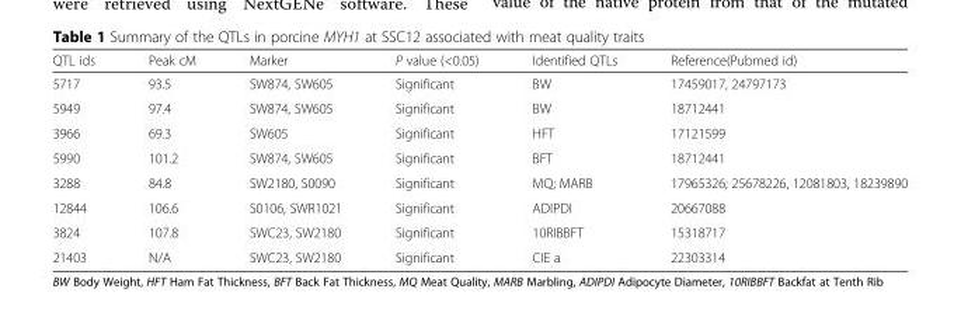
<table><thead><tr><td>QTL ids</td><td>Peak cM</td><td>Marker</td><td>P value (&lt;0.05)</td><td>Identified QTLs</td><td>Reference(Pubmed id)</td></tr></thead><tbody><tr><td>5717</td><td>93.5</td><td>SW874, SW605</td><td>Significant</td><td>BW</td><td>17459017, 24797173</td></tr><tr><td>5949</td><td>97.4</td><td>SW874, SW605</td><td>Significant</td><td>BW</td><td>18712441</td></tr><tr><td>3966</td><td>69.3</td><td>SW605</td><td>Significant</td><td>HFT</td><td>17121599</td></tr><tr><td>5990</td><td>101.2</td><td>SW874, SW605</td><td>Significant</td><td>BFT</td><td>18712441</td></tr><tr><td>3288</td><td>84.8</td><td>SW2180, S0090</td><td>Significant</td><td>MQ; MARB</td><td>17965326; 25678226, 12081803, 18239890</td></tr><tr><td>12844</td><td>106.6</td><td>S0106, SWR1021</td><td>Significant</td><td>ADIPDI</td><td>20667088</td></tr><tr><td>3824</td><td>107.8</td><td>SWC23, SW2180</td><td>Significant</td><td>10RIBBFT</td><td>15318717</td></tr><tr><td>21403</td><td>N/A</td><td>SWC23, SW2180</td><td>Significant</td><td>CIE a</td><td>22303314</td></tr></tbody></table>